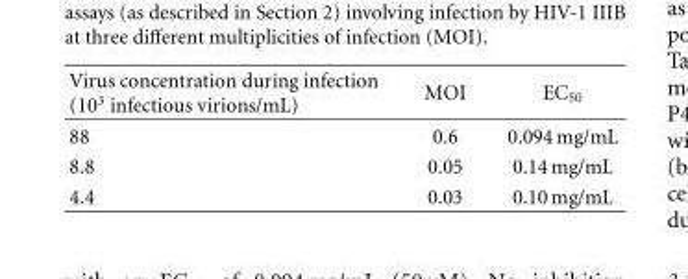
<table><thead><tr><td>Virus concentration during infection (10<sup>3</sup> infectious virions/mL)</td><td>MOI</td><td>EC<sub>50</sub></td></tr></thead><tbody><tr><td>88</td><td>0.6</td><td>0.094 mg/mL</td></tr><tr><td>8.8</td><td>0.05</td><td>0.14 mg/mL</td></tr><tr><td>4.4</td><td>0.03</td><td>0.10 mg/mL</td></tr></tbody></table>